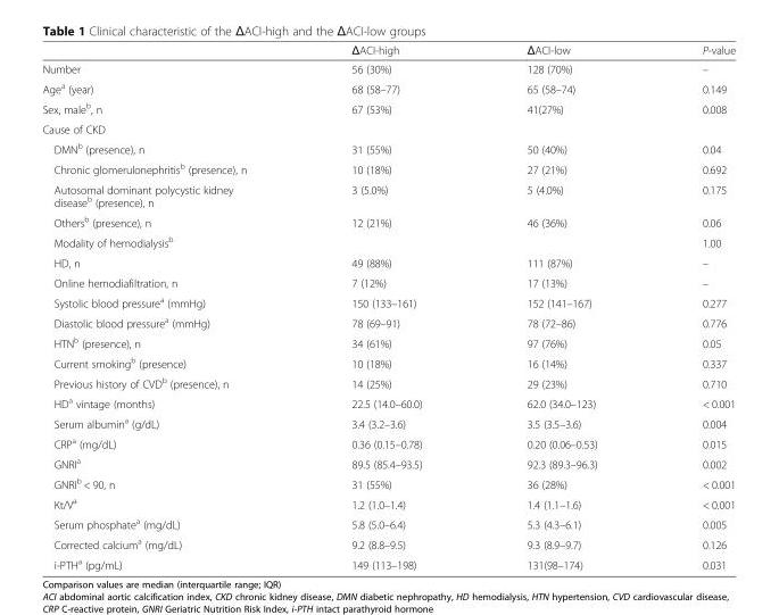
<table><thead><tr><td></td><td>ΔACI-high</td><td>ΔACI-low</td><td>P-value</td></tr></thead><tbody><tr><td>Number</td><td>56 (30%)</td><td>128 (70%)</td><td>–</td></tr><tr><td>Age<sup>a</sup> (year)</td><td>68 (58–77)</td><td>65 (58–74)</td><td>0.149</td></tr><tr><td>Sex, male<sup>b</sup>, n</td><td>67 (53%)</td><td>41(27%)</td><td>0.008</td></tr><tr><td colspan="4">Cause of CKD</td></tr><tr><td>DMN<sup>b</sup> (presence), n</td><td>31 (55%)</td><td>50 (40%)</td><td>0.04</td></tr><tr><td>Chronic glomerulonephritis<sup>b</sup> (presence), n</td><td>10 (18%)</td><td>27 (21%)</td><td>0.692</td></tr><tr><td>Autosomal dominant polycystic kidney disease<sup>b</sup> (presence), n</td><td>3 (5.0%)</td><td>5 (4.0%)</td><td>0.175</td></tr><tr><td>Others<sup>b</sup> (presence), n</td><td>12 (21%)</td><td>46 (36%)</td><td>0.06</td></tr><tr><td>Modality of hemodialysis<sup>b</sup></td><td></td><td></td><td>1.00</td></tr><tr><td>HD, n</td><td>49 (88%)</td><td>111 (87%)</td><td>–</td></tr><tr><td>Online hemodiafiltration, n</td><td>7 (12%)</td><td>17 (13%)</td><td>–</td></tr><tr><td>Systolic blood pressure<sup>a</sup> (mmHg)</td><td>150 (133–161)</td><td>152 (141–167)</td><td>0.277</td></tr><tr><td>Diastolic blood pressure<sup>a</sup> (mmHg)</td><td>78 (69–91)</td><td>78 (72–86)</td><td>0.776</td></tr><tr><td>HTN<sup>b</sup> (presence), n</td><td>34 (61%)</td><td>97 (76%)</td><td>0.05</td></tr><tr><td>Current smoking<sup>b</sup> (presence)</td><td>10 (18%)</td><td>16 (14%)</td><td>0.337</td></tr><tr><td>Previous history of CVD<sup>b</sup> (presence), n</td><td>14 (25%)</td><td>29 (23%)</td><td>0.710</td></tr><tr><td>HD<sup>a</sup> vintage (months)</td><td>22.5 (14.0–60.0)</td><td>62.0 (34.0–123)</td><td>&lt; 0.001</td></tr><tr><td>Serum albumin<sup>a</sup> (g/dL)</td><td>3.4 (3.2–3.6)</td><td>3.5 (3.5–3.6)</td><td>0.004</td></tr><tr><td>CRP<sup>a</sup> (mg/dL)</td><td>0.36 (0.15–0.78)</td><td>0.20 (0.06–0.53)</td><td>0.015</td></tr><tr><td>GNRI<sup>a</sup></td><td>89.5 (85.4–93.5)</td><td>92.3 (89.3–96.3)</td><td>0.002</td></tr><tr><td>GNRI<sup>b</sup> &lt; 90, n</td><td>31 (55%)</td><td>36 (28%)</td><td>&lt; 0.001</td></tr><tr><td>Kt/V<sup>a</sup></td><td>1.2 (1.0–1.4)</td><td>1.4 (1.1–1.6)</td><td>&lt; 0.001</td></tr><tr><td>Serum phosphate<sup>a</sup> (mg/dL)</td><td>5.8 (5.0–6.4)</td><td>5.3 (4.3–6.1)</td><td>0.005</td></tr><tr><td>Corrected calcium<sup>a</sup> (mg/dL)</td><td>9.2 (8.8–9.5)</td><td>9.3 (8.9–9.7)</td><td>0.126</td></tr><tr><td>i-PTH<sup>a</sup> (pg/mL)</td><td>149 (113–198)</td><td>131(98–174)</td><td>0.031</td></tr></tbody></table>